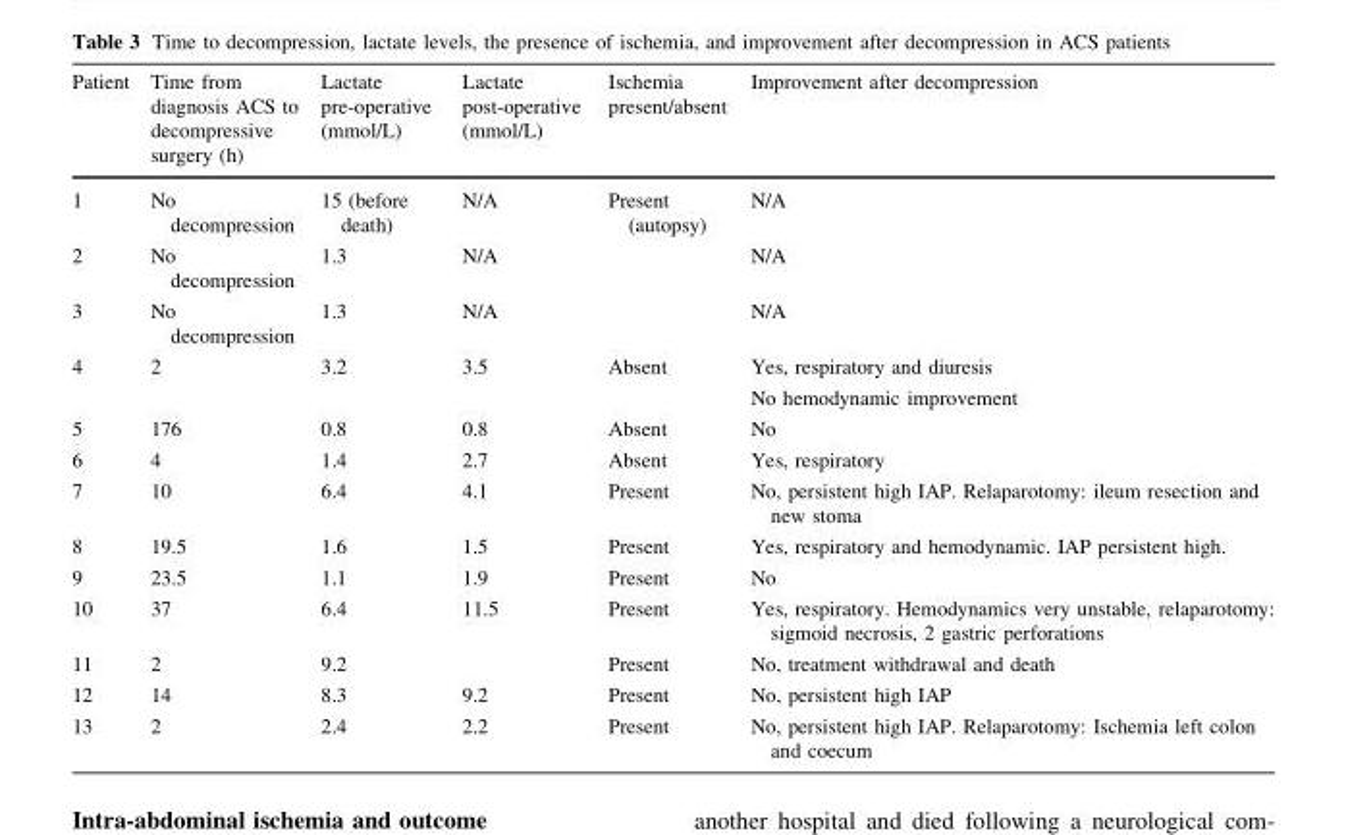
<table><thead><tr><td>Patient</td><td>Time from diagnosis ACS to decompressive surgery (h)</td><td>Lactate pre-operative (mmol/L)</td><td>Lactate post-operative (mmol/L)</td><td>Ischemia present/absent</td><td>Improvement after decompression</td></tr></thead><tbody><tr><td>1</td><td>No decompression</td><td>15 (before death)</td><td>N/A</td><td>Present (autopsy)</td><td>N/A</td></tr><tr><td>2</td><td>No decompression</td><td>1.3</td><td>N/A</td><td></td><td>N/A</td></tr><tr><td>3</td><td>No decompression</td><td>1.3</td><td>N/A</td><td></td><td>N/A</td></tr><tr><td>4</td><td>2</td><td>3.2</td><td>3.5</td><td>Absent</td><td>Yes, respiratory and diuresis No hemodynamic improvement</td></tr><tr><td>5</td><td>176</td><td>0.8</td><td>0.8</td><td>Absent</td><td>No</td></tr><tr><td>6</td><td>4</td><td>1.4</td><td>2.7</td><td>Absent</td><td>Yes, respiratory</td></tr><tr><td>7</td><td>10</td><td>6.4</td><td>4.1</td><td>Present</td><td>No, persistent high IAP. Relaparotomy: ileum resection and new stoma</td></tr><tr><td>8</td><td>19.5</td><td>1.6</td><td>1.5</td><td>Present</td><td>Yes, respiratory and hemodynamic. IAP persistent high.</td></tr><tr><td>9</td><td>23.5</td><td>1.1</td><td>1.9</td><td>Present</td><td>No</td></tr><tr><td>10</td><td>37</td><td>6.4</td><td>11.5</td><td>Present</td><td>Yes, respiratory. Hemodynamics very unstable, relaparotomy: sigmoid necrosis, 2 gastric perforations</td></tr><tr><td>11</td><td>2</td><td>9.2</td><td></td><td>Present</td><td>No, treatment withdrawal and death</td></tr><tr><td>12</td><td>14</td><td>8.3</td><td>9.2</td><td>Present</td><td>No, persistent high IAP</td></tr><tr><td>13</td><td>2</td><td>2.4</td><td>2.2</td><td>Present</td><td>No, persistent high IAP. Relaparotomy: Ischemia left colon and coecum</td></tr></tbody></table>